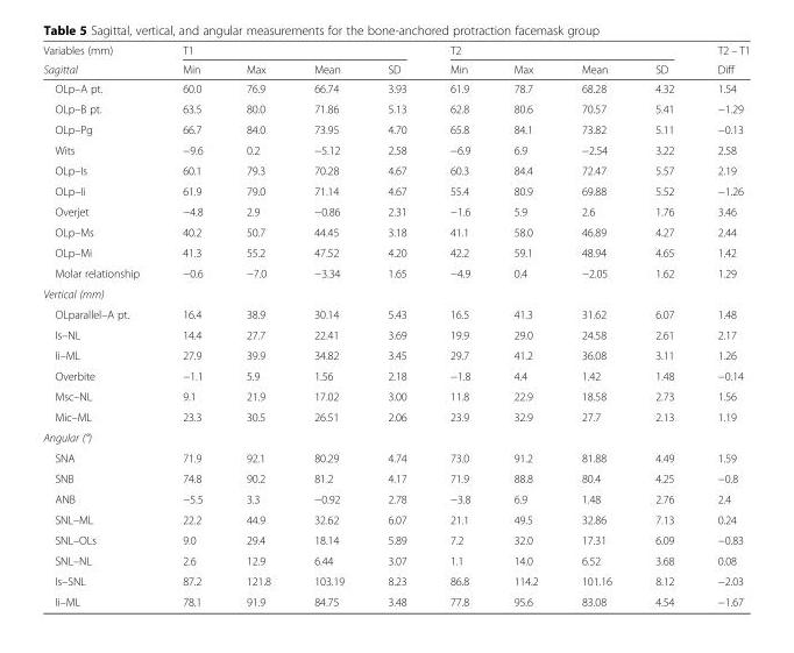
<table><thead><tr><td rowspan="2">Variables (mm) Sagittal</td><td colspan="4">T1</td><td colspan="4">T2</td><td rowspan="2">T2 – T1 Diff</td></tr><tr><td>Min</td><td>Max</td><td>Mean</td><td>SD</td><td>Min</td><td>Max</td><td>Mean</td><td>SD</td></tr></thead><tbody><tr><td>OLp–A pt.</td><td>60.0</td><td>76.9</td><td>66.74</td><td>3.93</td><td>61.9</td><td>78.7</td><td>68.28</td><td>4.32</td><td>1.54</td></tr><tr><td>OLp–B pt.</td><td>63.5</td><td>80.0</td><td>71.86</td><td>5.13</td><td>62.8</td><td>80.6</td><td>70.57</td><td>5.41</td><td>−1.29</td></tr><tr><td>OLp–Pg</td><td>66.7</td><td>84.0</td><td>73.95</td><td>4.70</td><td>65.8</td><td>84.1</td><td>73.82</td><td>5.11</td><td>−0.13</td></tr><tr><td>Wits</td><td>−9.6</td><td>0.2</td><td>−5.12</td><td>2.58</td><td>−6.9</td><td>6.9</td><td>−2.54</td><td>3.22</td><td>2.58</td></tr><tr><td>OLp–Is</td><td>60.1</td><td>79.3</td><td>70.28</td><td>4.67</td><td>60.3</td><td>84.4</td><td>72.47</td><td>5.57</td><td>2.19</td></tr><tr><td>OLp–Ii</td><td>61.9</td><td>79.0</td><td>71.14</td><td>4.67</td><td>55.4</td><td>80.9</td><td>69.88</td><td>5.52</td><td>−1.26</td></tr><tr><td>Overjet</td><td>−4.8</td><td>2.9</td><td>−0.86</td><td>2.31</td><td>−1.6</td><td>5.9</td><td>2.6</td><td>1.76</td><td>3.46</td></tr><tr><td>OLp–Ms</td><td>40.2</td><td>50.7</td><td>44.45</td><td>3.18</td><td>41.1</td><td>58.0</td><td>46.89</td><td>4.27</td><td>2.44</td></tr><tr><td>OLp–Mi</td><td>41.3</td><td>55.2</td><td>47.52</td><td>4.20</td><td>42.2</td><td>59.1</td><td>48.94</td><td>4.65</td><td>1.42</td></tr><tr><td>Molar relationship</td><td>−0.6</td><td>−7.0</td><td>−3.34</td><td>1.65</td><td>−4.9</td><td>0.4</td><td>−2.05</td><td>1.62</td><td>1.29</td></tr><tr><td colspan="10">Vertical (mm)</td></tr><tr><td>OLparallel–A pt.</td><td>16.4</td><td>38.9</td><td>30.14</td><td>5.43</td><td>16.5</td><td>41.3</td><td>31.62</td><td>6.07</td><td>1.48</td></tr><tr><td>Is–NL</td><td>14.4</td><td>27.7</td><td>22.41</td><td>3.69</td><td>19.9</td><td>29.0</td><td>24.58</td><td>2.61</td><td>2.17</td></tr><tr><td>Ii–ML</td><td>27.9</td><td>39.9</td><td>34.82</td><td>3.45</td><td>29.7</td><td>41.2</td><td>36.08</td><td>3.11</td><td>1.26</td></tr><tr><td>Overbite</td><td>−1.1</td><td>5.9</td><td>1.56</td><td>2.18</td><td>−1.8</td><td>4.4</td><td>1.42</td><td>1.48</td><td>−0.14</td></tr><tr><td>Msc–NL</td><td>9.1</td><td>21.9</td><td>17.02</td><td>3.00</td><td>11.8</td><td>22.9</td><td>18.58</td><td>2.73</td><td>1.56</td></tr><tr><td>Mic–ML</td><td>23.3</td><td>30.5</td><td>26.51</td><td>2.06</td><td>23.9</td><td>32.9</td><td>27.7</td><td>2.13</td><td>1.19</td></tr><tr><td colspan="10">Angular (°)</td></tr><tr><td>SNA</td><td>71.9</td><td>92.1</td><td>80.29</td><td>4.74</td><td>73.0</td><td>91.2</td><td>81.88</td><td>4.49</td><td>1.59</td></tr><tr><td>SNB</td><td>74.8</td><td>90.2</td><td>81.2</td><td>4.17</td><td>71.9</td><td>88.8</td><td>80.4</td><td>4.25</td><td>−0.8</td></tr><tr><td>ANB</td><td>−5.5</td><td>3.3</td><td>−0.92</td><td>2.78</td><td>−3.8</td><td>6.9</td><td>1.48</td><td>2.76</td><td>2.4</td></tr><tr><td>SNL–ML</td><td>22.2</td><td>44.9</td><td>32.62</td><td>6.07</td><td>21.1</td><td>49.5</td><td>32.86</td><td>7.13</td><td>0.24</td></tr><tr><td>SNL–OLs</td><td>9.0</td><td>29.4</td><td>18.14</td><td>5.89</td><td>7.2</td><td>32.0</td><td>17.31</td><td>6.09</td><td>−0.83</td></tr><tr><td>SNL–NL</td><td>2.6</td><td>12.9</td><td>6.44</td><td>3.07</td><td>1.1</td><td>14.0</td><td>6.52</td><td>3.68</td><td>0.08</td></tr><tr><td>Is–SNL</td><td>87.2</td><td>121.8</td><td>103.19</td><td>8.23</td><td>86.8</td><td>114.2</td><td>101.16</td><td>8.12</td><td>−2.03</td></tr><tr><td>Ii–ML</td><td>78.1</td><td>91.9</td><td>84.75</td><td>3.48</td><td>77.8</td><td>95.6</td><td>83.08</td><td>4.54</td><td>−1.67</td></tr></tbody></table>